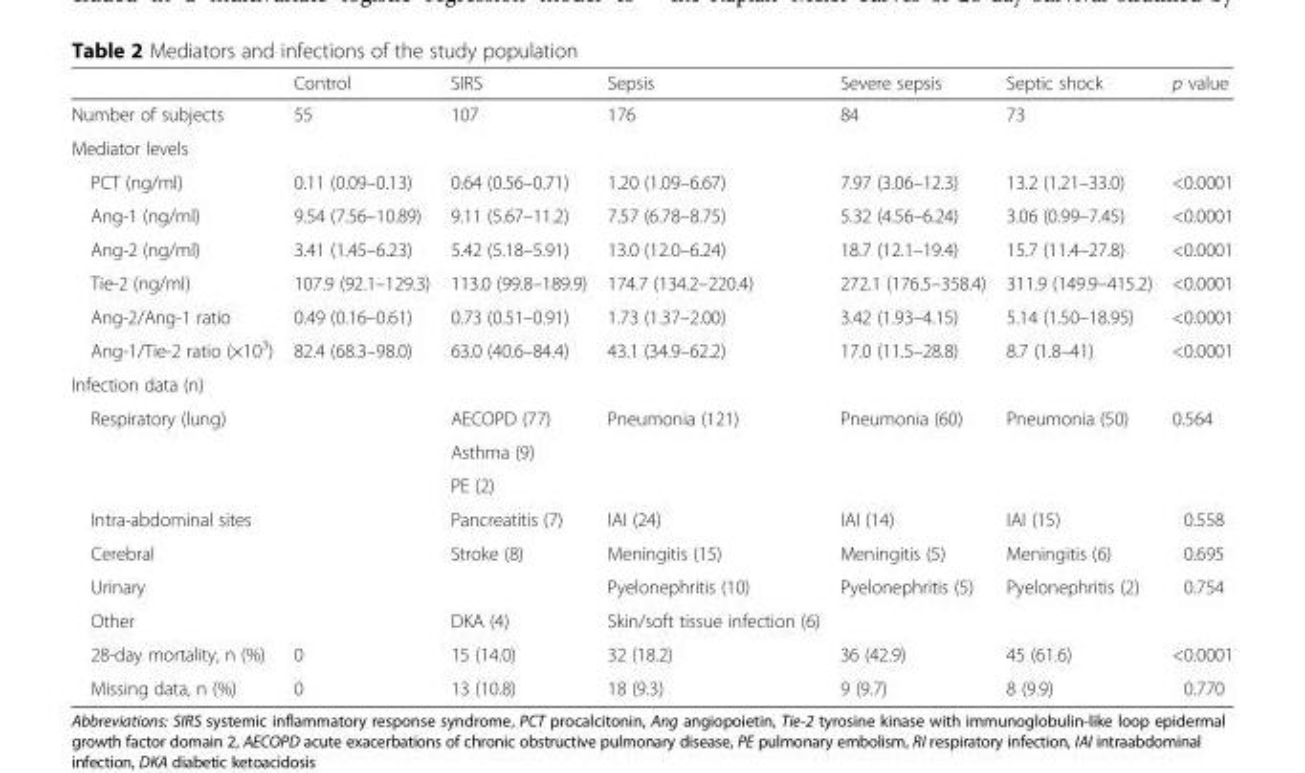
<table><thead><tr><td></td><td>Control</td><td>SIRS</td><td>Sepsis</td><td>Severe sepsis</td><td>Septic shock</td><td>p value</td></tr></thead><tbody><tr><td>Number of subjects</td><td>55</td><td>107</td><td>176</td><td>84</td><td>73</td><td></td></tr><tr><td colspan="7">Mediator levels</td></tr><tr><td>PCT (ng/ml)</td><td>0.11 (0.09–0.13)</td><td>0.64 (0.56–0.71)</td><td>1.20 (1.09–6.67)</td><td>7.97 (3.06–12.3)</td><td>13.2 (1.21–33.0)</td><td>&lt;0.0001</td></tr><tr><td>Ang-1 (ng/ml)</td><td>9.54 (7.56–10.89)</td><td>9.11 (5.67–11.2)</td><td>7.57 (6.78–8.75)</td><td>5.32 (4.56–6.24)</td><td>3.06 (0.99–7.45)</td><td>&lt;0.0001</td></tr><tr><td>Ang-2 (ng/ml)</td><td>3.41 (1.45–6.23)</td><td>5.42 (5.18–5.91)</td><td>13.0 (12.0–6.24)</td><td>18.7 (12.1–19.4)</td><td>15.7 (11.4–27.8)</td><td>&lt;0.0001</td></tr><tr><td>Tie-2 (ng/ml)</td><td>107.9 (92.1–129.3)</td><td>113.0 (99.8–189.9)</td><td>174.7 (134.2–220.4)</td><td>272.1 (176.5–358.4)</td><td>311.9 (149.9–415.2)</td><td>&lt;0.0001</td></tr><tr><td>Ang-2/Ang-1 ratio</td><td>0.49 (0.16–0.61)</td><td>0.73 (0.51–0.91)</td><td>1.73 (1.37–2.00)</td><td>3.42 (1.93–4.15)</td><td>5.14 (1.50–18.95)</td><td>&lt;0.0001</td></tr><tr><td>Ang-1/Tie-2 ratio (×10<sup>3</sup>)</td><td>82.4 (68.3–98.0)</td><td>63.0 (40.6–84.4)</td><td>43.1 (34.9–62.2)</td><td>17.0 (11.5–28.8)</td><td>8.7 (1.8–41)</td><td>&lt;0.0001</td></tr><tr><td colspan="7">Infection data (n)</td></tr><tr><td rowspan="3">Respiratory (lung)</td><td rowspan="3"></td><td>AECOPD (77)</td><td rowspan="3">Pneumonia (121)</td><td rowspan="3">Pneumonia (60)</td><td rowspan="3">Pneumonia (50)</td><td rowspan="3">0.564</td></tr><tr><td>Asthma (9)</td></tr><tr><td>PE (2)</td></tr><tr><td>Intra-abdominal sites</td><td></td><td>Pancreatitis (7)</td><td>IAI (24)</td><td>IAI (14)</td><td>IAI (15)</td><td>0.558</td></tr><tr><td>Cerebral</td><td></td><td>Stroke (8)</td><td>Meningitis (15)</td><td>Meningitis (5)</td><td>Meningitis (6)</td><td>0.695</td></tr><tr><td>Urinary</td><td></td><td></td><td>Pyelonephritis (10)</td><td>Pyelonephritis (5)</td><td>Pyelonephritis (2)</td><td>0.754</td></tr><tr><td>Other</td><td></td><td>DKA (4)</td><td>Skin/soft tissue infection (6)</td><td></td><td></td><td></td></tr><tr><td>28-day mortality, n (%)</td><td>0</td><td>15 (14.0)</td><td>32 (18.2)</td><td>36 (42.9)</td><td>45 (61.6)</td><td>&lt;0.0001</td></tr><tr><td>Missing data, n (%)</td><td>0</td><td>13 (10.8)</td><td>18 (9.3)</td><td>9 (9.7)</td><td>8 (9.9)</td><td>0.770</td></tr></tbody></table>